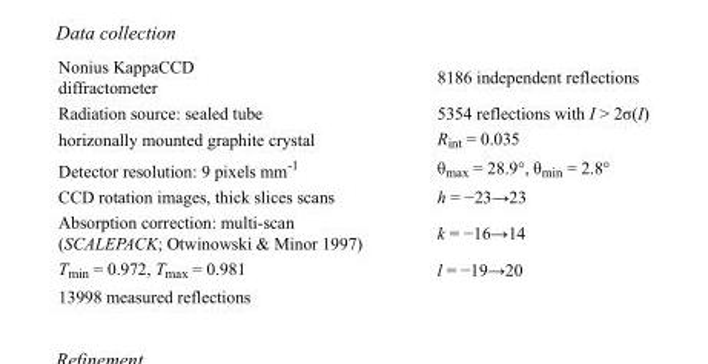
<table><tbody><tr><td>Nonius KappaCCD diffractometer</td><td>8186 independent reflections</td></tr><tr><td>Radiation source: sealed tube</td><td>5354 reflections with I &gt; 2σ(I)</td></tr><tr><td>horizonally mounted graphite crystal</td><td>R<sub>int</sub> = 0.035</td></tr><tr><td>Detector resolution: 9 pixels mm<sup>-1</sup></td><td>θ<sub>max</sub> = 28.9°, θ<sub>min</sub> = 2.8°</td></tr><tr><td>CCD rotation images, thick slices scans</td><td>h = −23→23</td></tr><tr><td>Absorption correction: multi-scan (SCALEPACK; Otwinowski &amp; Minor 1997)</td><td>k = −16→14</td></tr><tr><td>T<sub>min</sub> = 0.972, T<sub>max</sub> = 0.981</td><td>l = −19→20</td></tr><tr><td>13998 measured reflections</td><td></td></tr></tbody></table>